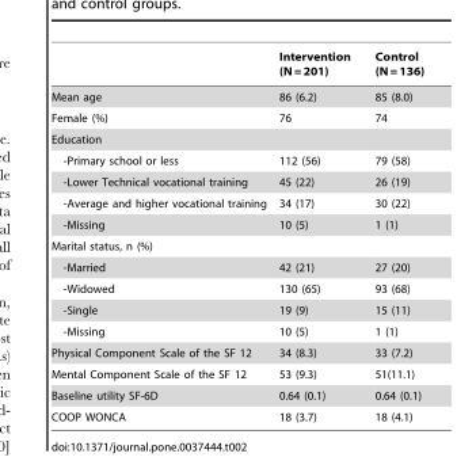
<table><thead><tr><td></td><td>Intervention (N = 201)</td><td>Control (N = 136)</td></tr></thead><tbody><tr><td>Mean age</td><td>86 (6.2)</td><td>85 (8.0)</td></tr><tr><td>Female (%)</td><td>76</td><td>74</td></tr><tr><td colspan="3">Education</td></tr><tr><td>-Primary school or less</td><td>112 (56)</td><td>79 (58)</td></tr><tr><td>-Lower Technical vocational training</td><td>45 (22)</td><td>26 (19)</td></tr><tr><td>-Average and higher vocational training</td><td>34 (17)</td><td>30 (22)</td></tr><tr><td>-Missing</td><td>10 (5)</td><td>1 (1)</td></tr><tr><td colspan="3">Marital status, n (%)</td></tr><tr><td>-Married</td><td>42 (21)</td><td>27 (20)</td></tr><tr><td>-Widowed</td><td>130 (65)</td><td>93 (68)</td></tr><tr><td>-Single</td><td>19 (9)</td><td>15 (11)</td></tr><tr><td>-Missing</td><td>10 (5)</td><td>1 (1)</td></tr><tr><td>Physical Component Scale of the SF 12</td><td>34 (8.3)</td><td>33 (7.2)</td></tr><tr><td>Mental Component Scale of the SF 12</td><td>53 (9.3)</td><td>51(11.1)</td></tr><tr><td>Baseline utility SF-6D</td><td>0.64 (0.1)</td><td>0.64 (0.1)</td></tr><tr><td>COOP WONCA</td><td>18 (3.7)</td><td>18 (4.1)</td></tr></tbody></table>